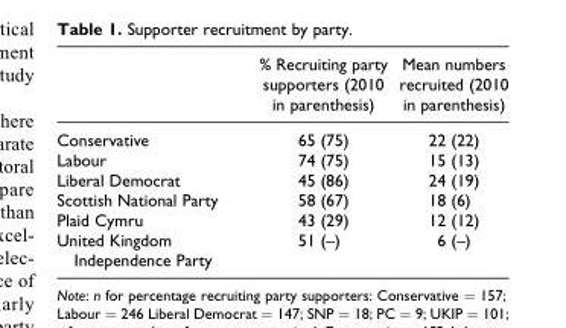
<table><thead><tr><td></td><td>% Recruiting party supporters (2010 in parenthesis)</td><td>Mean numbers recruited (2010 in parenthesis)</td></tr></thead><tbody><tr><td>Conservative</td><td>65 (75)</td><td>22 (22)</td></tr><tr><td>Labour</td><td>74 (75)</td><td>15 (13)</td></tr><tr><td>Liberal Democrat</td><td>45 (86)</td><td>24 (19)</td></tr><tr><td>Scottish National Party</td><td>58 (67)</td><td>18 (6)</td></tr><tr><td>Plaid Cymru</td><td>43 (29)</td><td>12 (12)</td></tr><tr><td>United Kingdom Independence Party</td><td>51 (–)</td><td>6 (–)</td></tr></tbody></table>